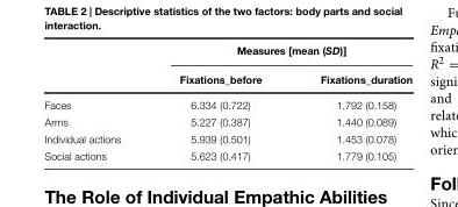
<table><thead><tr><td rowspan="2"></td><td colspan="2">Measures [mean (SD)]</td></tr><tr><td>Fixations_before</td><td>Fixations_duration</td></tr></thead><tbody><tr><td>Faces</td><td>6.334 (0.722)</td><td>1.792 (0.158)</td></tr><tr><td>Arms</td><td>5.227 (0.387)</td><td>1.440 (0.089)</td></tr><tr><td>Individual actions</td><td>5.939 (0.501)</td><td>1.453 (0.078)</td></tr><tr><td>Social actions</td><td>5.623 (0.417)</td><td>1.779 (0.105)</td></tr></tbody></table>